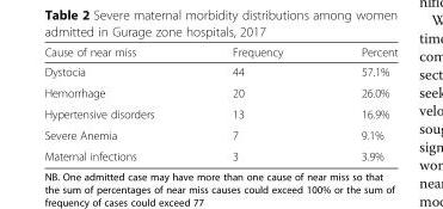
<table><thead><tr><td>Cause of near miss</td><td>Frequency</td><td>Percent</td></tr></thead><tbody><tr><td>Dystocia</td><td>44</td><td>57.1%</td></tr><tr><td>Hemorrhage</td><td>20</td><td>26.0%</td></tr><tr><td>Hypertensive disorders</td><td>13</td><td>16.9%</td></tr><tr><td>Severe Anemia</td><td>7</td><td>9.1%</td></tr><tr><td>Maternal infections</td><td>3</td><td>3.9%</td></tr></tbody></table>